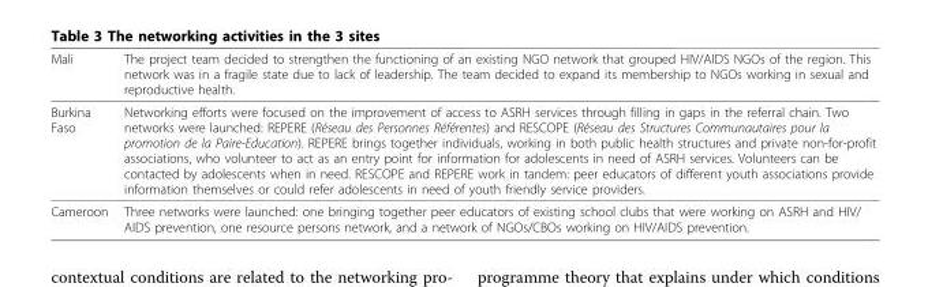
<table><thead><tr><td>Mali</td><td>The project team decided to strengthen the functioning of an existing NGO network that grouped HIV/AIDS NGOs of the region. This network was in a fragile state due to lack of leadership. The team decided to expand its membership to NGOs working in sexual and reproductive health.</td></tr></thead><tbody><tr><td>Burkina Faso</td><td>Networking efforts were focused on the improvement of access to ASRH services through filling in gaps in the referral chain. Two networks were launched: REPERE (Réseau des Personnes Référentes) and RESCOPE (Réseau des Structures Communautaires pour la promotion de la Paire-Education). REPERE brings together individuals, working in both public health structures and private non-for-profit associations, who volunteer to act as an entry point for information for adolescents in need of ASRH services. Volunteers can be contacted by adolescents when in need. RESCOPE and REPERE work in tandem: peer educators of different youth associations provide information themselves or could refer adolescents in need of youth friendly service providers.</td></tr><tr><td>Cameroon</td><td>Three networks were launched: one bringing together peer educators of existing school clubs that were working on ASRH and HIV/ AIDS prevention, one resource persons network, and a network of NGOs/CBOs working on HIV/AIDS prevention.</td></tr></tbody></table>